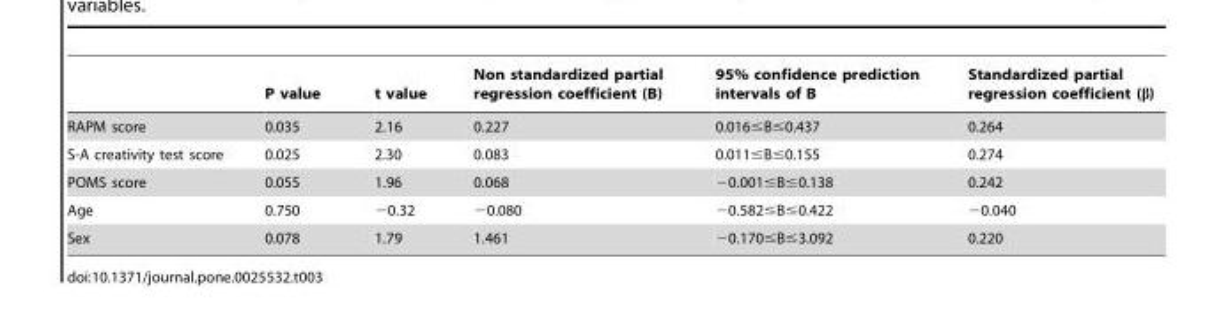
<table><thead><tr><td></td><td>P value</td><td>t value</td><td>Non standardized partial regression coefficient (B)</td><td>95% confidence prediction intervals of B</td><td>Standardized partial regression coefficient (β)</td></tr></thead><tbody><tr><td>RAPM score</td><td>0.035</td><td>2.16</td><td>0.227</td><td>0.016≤B≤0.437</td><td>0.264</td></tr><tr><td>S-A creativity test score</td><td>0.025</td><td>2.30</td><td>0.083</td><td>0.011≤B≤0.155</td><td>0.274</td></tr><tr><td>POMS score</td><td>0.055</td><td>1.96</td><td>0.068</td><td>−0.001≤B≤0.138</td><td>0.242</td></tr><tr><td>Age</td><td>0.750</td><td>−0.32</td><td>−0.080</td><td>−0.582≤B≤0.422</td><td>−0.040</td></tr><tr><td>Sex</td><td>0.078</td><td>1.79</td><td>1.461</td><td>−0.170≤B≤3.092</td><td>0.220</td></tr></tbody></table>